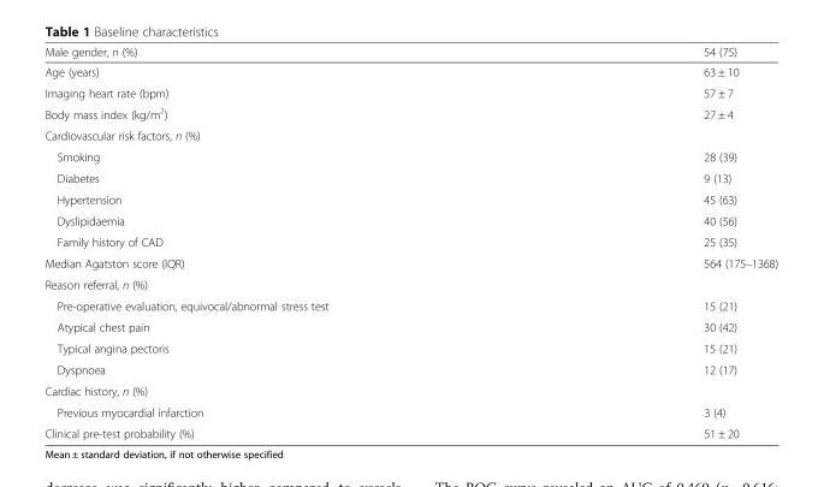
<table><thead><tr><td>Male gender, n (%)</td><td>54 (75)</td></tr></thead><tbody><tr><td>Age (years)</td><td>63 ± 10</td></tr><tr><td>Imaging heart rate (bpm)</td><td>57 ± 7</td></tr><tr><td>Body mass index (kg/m<sup>2</sup>)</td><td>27 ± 4</td></tr><tr><td colspan="2">Cardiovascular risk factors, n (%)</td></tr><tr><td>Smoking</td><td>28 (39)</td></tr><tr><td>Diabetes</td><td>9 (13)</td></tr><tr><td>Hypertension</td><td>45 (63)</td></tr><tr><td>Dyslipidaemia</td><td>40 (56)</td></tr><tr><td>Family history of CAD</td><td>25 (35)</td></tr><tr><td>Median Agatston score (IQR)</td><td>564 (175–1368)</td></tr><tr><td colspan="2">Reason referral, n (%)</td></tr><tr><td>Pre-operative evaluation, equivocal/abnormal stress test</td><td>15 (21)</td></tr><tr><td>Atypical chest pain</td><td>30 (42)</td></tr><tr><td>Typical angina pectoris</td><td>15 (21)</td></tr><tr><td>Dyspnoea</td><td>12 (17)</td></tr><tr><td colspan="2">Cardiac history, n (%)</td></tr><tr><td>Previous myocardial infarction</td><td>3 (4)</td></tr><tr><td>Clinical pre-test probability (%)</td><td>51 ± 20</td></tr></tbody></table>